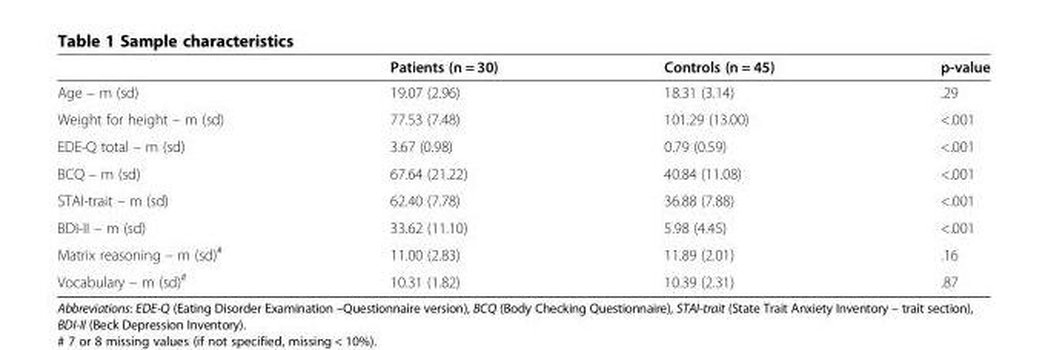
<table><thead><tr><td></td><td>Patients (n = 30)</td><td>Controls (n = 45)</td><td>p-value</td></tr></thead><tbody><tr><td>Age – m (sd)</td><td>19.07 (2.96)</td><td>18.31 (3.14)</td><td>.29</td></tr><tr><td>Weight for height – m (sd)</td><td>77.53 (7.48)</td><td>101.29 (13.00)</td><td>&lt;.001</td></tr><tr><td>EDE-Q total – m (sd)</td><td>3.67 (0.98)</td><td>0.79 (0.59)</td><td>&lt;.001</td></tr><tr><td>BCQ – m (sd)</td><td>67.64 (21.22)</td><td>40.84 (11.08)</td><td>&lt;.001</td></tr><tr><td>STAI-trait – m (sd)</td><td>62.40 (7.78)</td><td>36.88 (7.88)</td><td>&lt;.001</td></tr><tr><td>BDI-II – m (sd)</td><td>33.62 (11.10)</td><td>5.98 (4.45)</td><td>&lt;.001</td></tr><tr><td>Matrix reasoning – m (sd)<sup>#</sup></td><td>11.00 (2.83)</td><td>11.89 (2.01)</td><td>.16</td></tr><tr><td>Vocabulary – m (sd)<sup>#</sup></td><td>10.31 (1.82)</td><td>10.39 (2.31)</td><td>.87</td></tr></tbody></table>